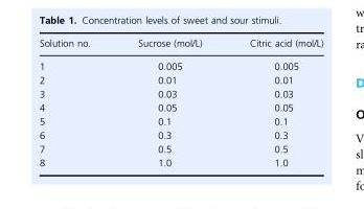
<table><thead><tr><td>Solution no.</td><td>Sucrose (mol/L)</td><td>Citric acid (mol/L)</td></tr></thead><tbody><tr><td>1</td><td>0.005</td><td>0.005</td></tr><tr><td>2</td><td>0.01</td><td>0.01</td></tr><tr><td>3</td><td>0.03</td><td>0.03</td></tr><tr><td>4</td><td>0.05</td><td>0.05</td></tr><tr><td>5</td><td>0.1</td><td>0.1</td></tr><tr><td>6</td><td>0.3</td><td>0.3</td></tr><tr><td>7</td><td>0.5</td><td>0.5</td></tr><tr><td>8</td><td>1.0</td><td>1.0</td></tr></tbody></table>